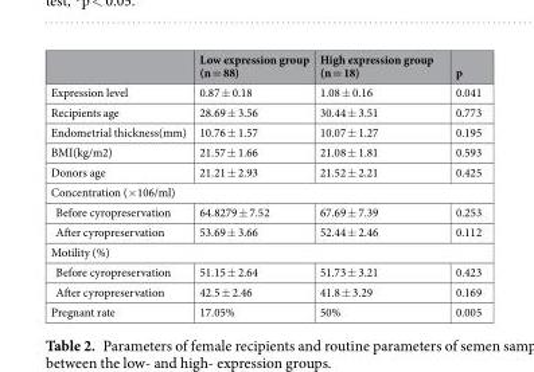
<table><thead><tr><td></td><td>Low expression group (n = 88)</td><td>High expression group (n = 18)</td><td>p</td></tr></thead><tbody><tr><td>Expression level</td><td>0.87 ± 0.18</td><td>1.08 ± 0.16</td><td>0.041</td></tr><tr><td>Recipients age</td><td>28.69 ± 3.56</td><td>30.44 ± 3.51</td><td>0.773</td></tr><tr><td>Endometrial thickness(mm)</td><td>10.76 ± 1.57</td><td>10.07 ± 1.27</td><td>0.195</td></tr><tr><td>BMI(kg/m2)</td><td>21.57 ± 1.66</td><td>21.08 ± 1.81</td><td>0.593</td></tr><tr><td>Donors age</td><td>21.21 ± 2.93</td><td>21.52 ± 2.21</td><td>0.425</td></tr><tr><td colspan="4">Concentration (×106/ml)</td></tr><tr><td>Before cyropreservation</td><td>64.8279 ± 7.52</td><td>67.69 ± 7.39</td><td>0.253</td></tr><tr><td>After cyropreservation</td><td>53.69 ± 3.66</td><td>52.44 ± 2.46</td><td>0.112</td></tr><tr><td colspan="4">Motility (%)</td></tr><tr><td>Before cyropreservation</td><td>51.15 ± 2.64</td><td>51.73 ± 3.21</td><td>0.423</td></tr><tr><td>After cyropreservation</td><td>42.5 ± 2.46</td><td>41.8 ± 3.29</td><td>0.169</td></tr><tr><td>Pregnant rate</td><td>17.05%</td><td>50%</td><td>0.005</td></tr></tbody></table>